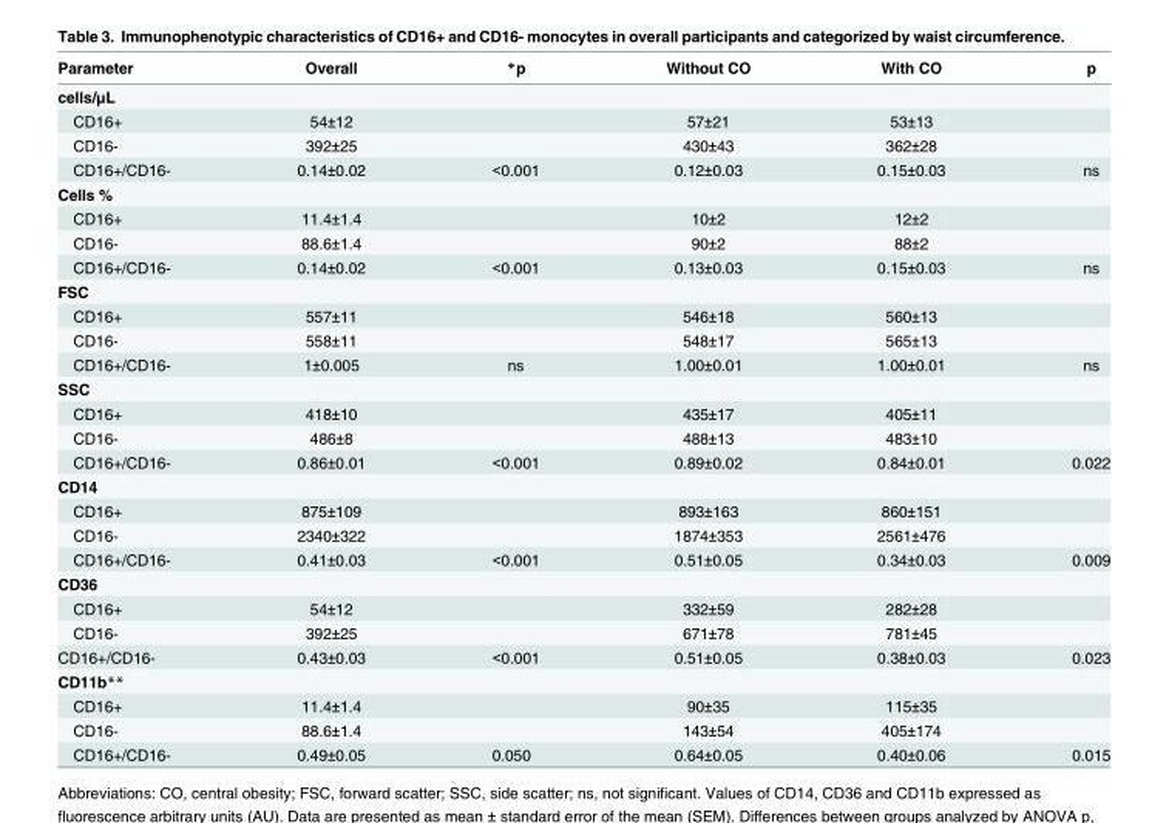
<table><thead><tr><td>Parameter</td><td>Overall</td><td>*p</td><td>Without CO</td><td>With CO</td><td>p</td></tr></thead><tbody><tr><td colspan="6">cells/μL</td></tr><tr><td>CD16+</td><td>54±12</td><td></td><td>57±21</td><td>53±13</td><td></td></tr><tr><td>CD16-</td><td>392±25</td><td></td><td>430±43</td><td>362±28</td><td></td></tr><tr><td>CD16+/CD16-</td><td>0.14±0.02</td><td>&lt;0.001</td><td>0.12±0.03</td><td>0.15±0.03</td><td>ns</td></tr><tr><td colspan="6">Cells %</td></tr><tr><td>CD16+</td><td>11.4±1.4</td><td></td><td>10±2</td><td>12±2</td><td></td></tr><tr><td>CD16-</td><td>88.6±1.4</td><td></td><td>90±2</td><td>88±2</td><td></td></tr><tr><td>CD16+/CD16-</td><td>0.14±0.02</td><td>&lt;0.001</td><td>0.13±0.03</td><td>0.15±0.03</td><td>ns</td></tr><tr><td colspan="6">FSC</td></tr><tr><td>CD16+</td><td>557±11</td><td></td><td>546±18</td><td>560±13</td><td></td></tr><tr><td>CD16-</td><td>558±11</td><td></td><td>548±17</td><td>565±13</td><td></td></tr><tr><td>CD16+/CD16-</td><td>1±0.005</td><td>ns</td><td>1.00±0.01</td><td>1.00±0.01</td><td>ns</td></tr><tr><td colspan="6">SSC</td></tr><tr><td>CD16+</td><td>418±10</td><td></td><td>435±17</td><td>405±11</td><td></td></tr><tr><td>CD16-</td><td>486±8</td><td></td><td>488±13</td><td>483±10</td><td></td></tr><tr><td>CD16+/CD16-</td><td>0.86±0.01</td><td>&lt;0.001</td><td>0.89±0.02</td><td>0.84±0.01</td><td>0.022</td></tr><tr><td colspan="6">CD14</td></tr><tr><td>CD16+</td><td>875±109</td><td></td><td>893±163</td><td>860±151</td><td></td></tr><tr><td>CD16-</td><td>2340±322</td><td></td><td>1874±353</td><td>2561±476</td><td></td></tr><tr><td>CD16+/CD16-</td><td>0.41±0.03</td><td>&lt;0.001</td><td>0.51±0.05</td><td>0.34±0.03</td><td>0.009</td></tr><tr><td colspan="6">CD36</td></tr><tr><td>CD16+</td><td>54±12</td><td></td><td>332±59</td><td>282±28</td><td></td></tr><tr><td>CD16-</td><td>392±25</td><td></td><td>671±78</td><td>781±45</td><td></td></tr><tr><td>CD16+/CD16-</td><td>0.43±0.03</td><td>&lt;0.001</td><td>0.51±0.05</td><td>0.38±0.03</td><td>0.023</td></tr><tr><td colspan="6">CD11b**</td></tr><tr><td>CD16+</td><td>11.4±1.4</td><td></td><td>90±35</td><td>115±35</td><td></td></tr><tr><td>CD16-</td><td>88.6±1.4</td><td></td><td>143±54</td><td>405±174</td><td></td></tr><tr><td>CD16+/CD16-</td><td>0.49±0.05</td><td>0.050</td><td>0.64±0.05</td><td>0.40±0.06</td><td>0.015</td></tr></tbody></table>